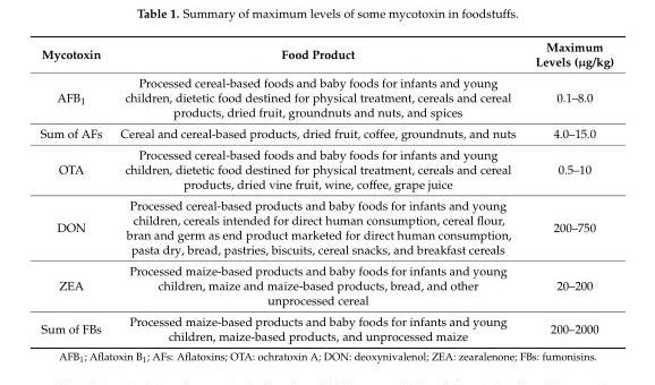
<table><thead><tr><td>Mycotoxin</td><td>Food Product</td><td>Maximum Levels (µg/kg)</td></tr></thead><tbody><tr><td>AFB<sub>1</sub></td><td>Processed cereal-based foods and baby foods for infants and young children, dietetic food destined for physical treatment, cereals and cereal products, dried fruit, groundnuts and nuts, and spices</td><td>0.1–8.0</td></tr><tr><td>Sum of AFs</td><td>Cereal and cereal-based products, dried fruit, coffee, groundnuts, and nuts</td><td>4.0–15.0</td></tr><tr><td>OTA</td><td>Processed cereal-based foods and baby foods for infants and young children, dietetic food destined for physical treatment, cereals and cereal products, dried vine fruit, wine, coffee, grape juice</td><td>0.5–10</td></tr><tr><td>DON</td><td>Processed cereal-based products and baby foods for infants and young children, cereals intended for direct human consumption, cereal flour, bran and germ as end product marketed for direct human consumption, pasta dry, bread, pastries, biscuits, cereal snacks, and breakfast cereals</td><td>200–750</td></tr><tr><td>ZEA</td><td>Processed maize-based products and baby foods for infants and young children, maize and maize-based products, bread, and other unprocessed cereal</td><td>20–200</td></tr><tr><td>Sum of FBs</td><td>Processed maize-based products and baby foods for infants and young children, maize-based products, and unprocessed maize</td><td>200–2000</td></tr></tbody></table>